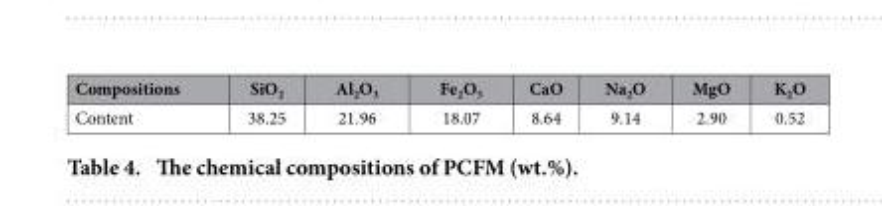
<table><thead><tr><td>Compositions</td><td>SiO<sub>2</sub></td><td>Al<sub>2</sub>O<sub>3</sub></td><td>Fe<sub>2</sub>O<sub>3</sub></td><td>CaO</td><td>Na<sub>2</sub>O</td><td>MgO</td><td>K<sub>2</sub>O</td></tr></thead><tbody><tr><td>Content</td><td>38.25</td><td>21.96</td><td>18.07</td><td>8.64</td><td>9.14</td><td>2.90</td><td>0.52</td></tr></tbody></table>